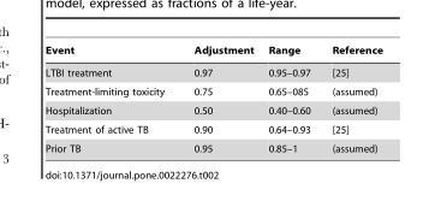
<table><thead><tr><td>Event</td><td>Adjustment</td><td>Range</td><td>Reference</td></tr></thead><tbody><tr><td>LTBI treatment</td><td>0.97</td><td>0.95–0.97</td><td>[25]</td></tr><tr><td>Treatment-limiting toxicity</td><td>0.75</td><td>0.65–085</td><td>(assumed)</td></tr><tr><td>Hospitalization</td><td>0.50</td><td>0.40–0.60</td><td>(assumed)</td></tr><tr><td>Treatment of active TB</td><td>0.90</td><td>0.64–0.93</td><td>[25]</td></tr><tr><td>Prior TB</td><td>0.95</td><td>0.85–1</td><td>(assumed)</td></tr></tbody></table>